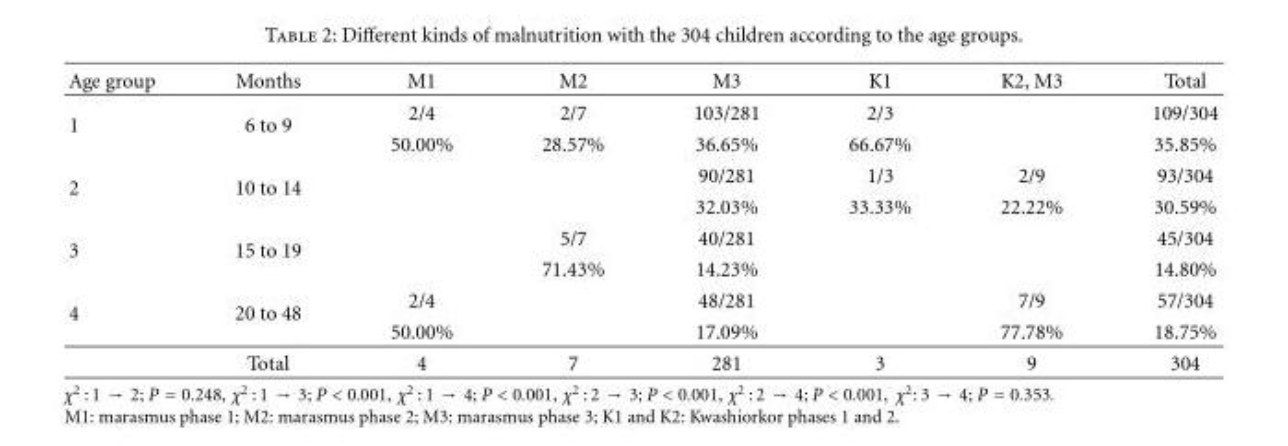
<table><thead><tr><td>Age group</td><td>Months</td><td>M1</td><td>M2</td><td>M3</td><td>K1</td><td>K2, M3</td><td>Total</td></tr></thead><tbody><tr><td rowspan="2">1</td><td rowspan="2">6 to 9</td><td>2/4</td><td>2/7</td><td>103/281</td><td>2/3</td><td></td><td>109/304</td></tr><tr><td>50.00%</td><td>28.57%</td><td>36.65%</td><td>66.67%</td><td></td><td>35.85%</td></tr><tr><td rowspan="2">2</td><td rowspan="2">10 to 14</td><td></td><td></td><td>90/281</td><td>1/3</td><td>2/9</td><td>93/304</td></tr><tr><td></td><td></td><td>32.03%</td><td>33.33%</td><td>22.22%</td><td>30.59%</td></tr><tr><td rowspan="2">3</td><td rowspan="2">15 to 19</td><td></td><td>5/7</td><td>40/281</td><td></td><td></td><td>45/304</td></tr><tr><td></td><td>71.43%</td><td>14.23%</td><td></td><td></td><td>14.80%</td></tr><tr><td rowspan="3">4</td><td rowspan="2">20 to 48</td><td>2/4</td><td></td><td>48/281</td><td></td><td>7/9</td><td>57/304</td></tr><tr><td>50.00%</td><td></td><td>17.09%</td><td></td><td>77.78%</td><td>18.75%</td></tr><tr><td>Total</td><td>4</td><td>7</td><td>281</td><td>3</td><td>9</td><td>304</td></tr></tbody></table>